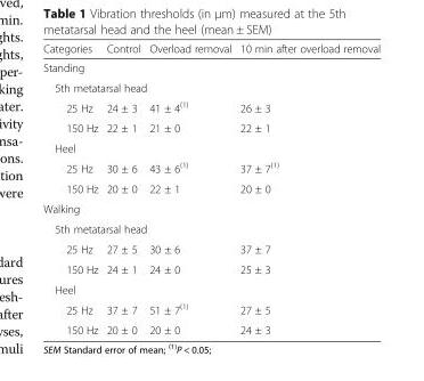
<table><thead><tr><td>Categories</td><td>Control</td><td>Overload removal</td><td>10 min after overload removal</td></tr></thead><tbody><tr><td colspan="4">Standing</td></tr><tr><td colspan="4">5th metatarsal head</td></tr><tr><td>25 Hz</td><td>24 ± 3</td><td>41 ± 4<sup>(1)</sup></td><td>26 ± 3</td></tr><tr><td>150 Hz</td><td>22 ± 1</td><td>21 ± 0</td><td>22 ± 1</td></tr><tr><td colspan="4">Heel</td></tr><tr><td>25 Hz</td><td>30 ± 6</td><td>43 ± 6<sup>(1)</sup></td><td>37 ± 7<sup>(1)</sup></td></tr><tr><td>150 Hz</td><td>20 ± 0</td><td>22 ± 1</td><td>20 ± 0</td></tr><tr><td colspan="4">Walking</td></tr><tr><td colspan="4">5th metatarsal head</td></tr><tr><td>25 Hz</td><td>27 ± 5</td><td>30 ± 6</td><td>37 ± 7</td></tr><tr><td>150 Hz</td><td>24 ± 1</td><td>24 ± 0</td><td>25 ± 3</td></tr><tr><td colspan="4">Heel</td></tr><tr><td>25 Hz</td><td>37 ± 7</td><td>51 ± 7<sup>(1)</sup></td><td>27 ± 5</td></tr><tr><td>150 Hz</td><td>20 ± 0</td><td>20 ± 0</td><td>24 ± 3</td></tr></tbody></table>